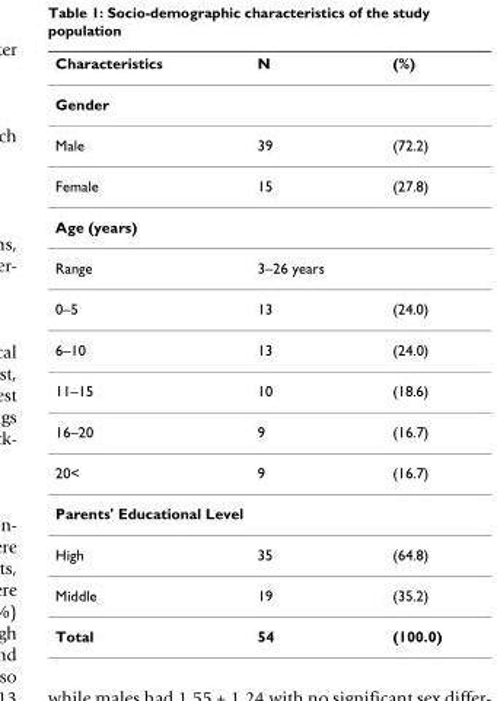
<table><thead><tr><td>Characteristics</td><td>N</td><td>(%)</td></tr></thead><tbody><tr><td colspan="3">Gender</td></tr><tr><td>Male</td><td>39</td><td>(72.2)</td></tr><tr><td>Female</td><td>15</td><td>(27.8)</td></tr><tr><td colspan="3">Age (years)</td></tr><tr><td>Range</td><td>3–26 years</td><td></td></tr><tr><td>0–5</td><td>13</td><td>(24.0)</td></tr><tr><td>6–10</td><td>13</td><td>(24.0)</td></tr><tr><td>11–15</td><td>10</td><td>(18.6)</td></tr><tr><td>16–20</td><td>9</td><td>(16.7)</td></tr><tr><td>20&lt;</td><td>9</td><td>(16.7)</td></tr><tr><td colspan="3">Parents&#x27; Educational Level</td></tr><tr><td>High</td><td>35</td><td>(64.8)</td></tr><tr><td>Middle</td><td>19</td><td>(35.2)</td></tr><tr><td>Total</td><td>54</td><td>(100.0)</td></tr></tbody></table>